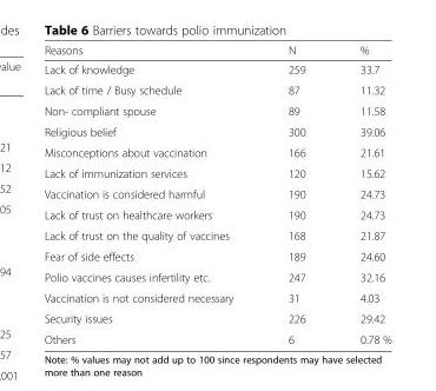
<table><thead><tr><td>Reasons</td><td>N</td><td>%</td></tr></thead><tbody><tr><td>Lack of knowledge</td><td>259</td><td>33.7</td></tr><tr><td>Lack of time / Busy schedule</td><td>87</td><td>11.32</td></tr><tr><td>Non- compliant spouse</td><td>89</td><td>11.58</td></tr><tr><td>Religious belief</td><td>300</td><td>39.06</td></tr><tr><td>Misconceptions about vaccination</td><td>166</td><td>21.61</td></tr><tr><td>Lack of immunization services</td><td>120</td><td>15.62</td></tr><tr><td>Vaccination is considered harmful</td><td>190</td><td>24.73</td></tr><tr><td>Lack of trust on healthcare workers</td><td>190</td><td>24.73</td></tr><tr><td>Lack of trust on the quality of vaccines</td><td>168</td><td>21.87</td></tr><tr><td>Fear of side effects</td><td>189</td><td>24.60</td></tr><tr><td>Polio vaccines causes infertility etc.</td><td>247</td><td>32.16</td></tr><tr><td>Vaccination is not considered necessary</td><td>31</td><td>4.03</td></tr><tr><td>Security issues</td><td>226</td><td>29.42</td></tr><tr><td>Others</td><td>6</td><td>0.78 %</td></tr></tbody></table>